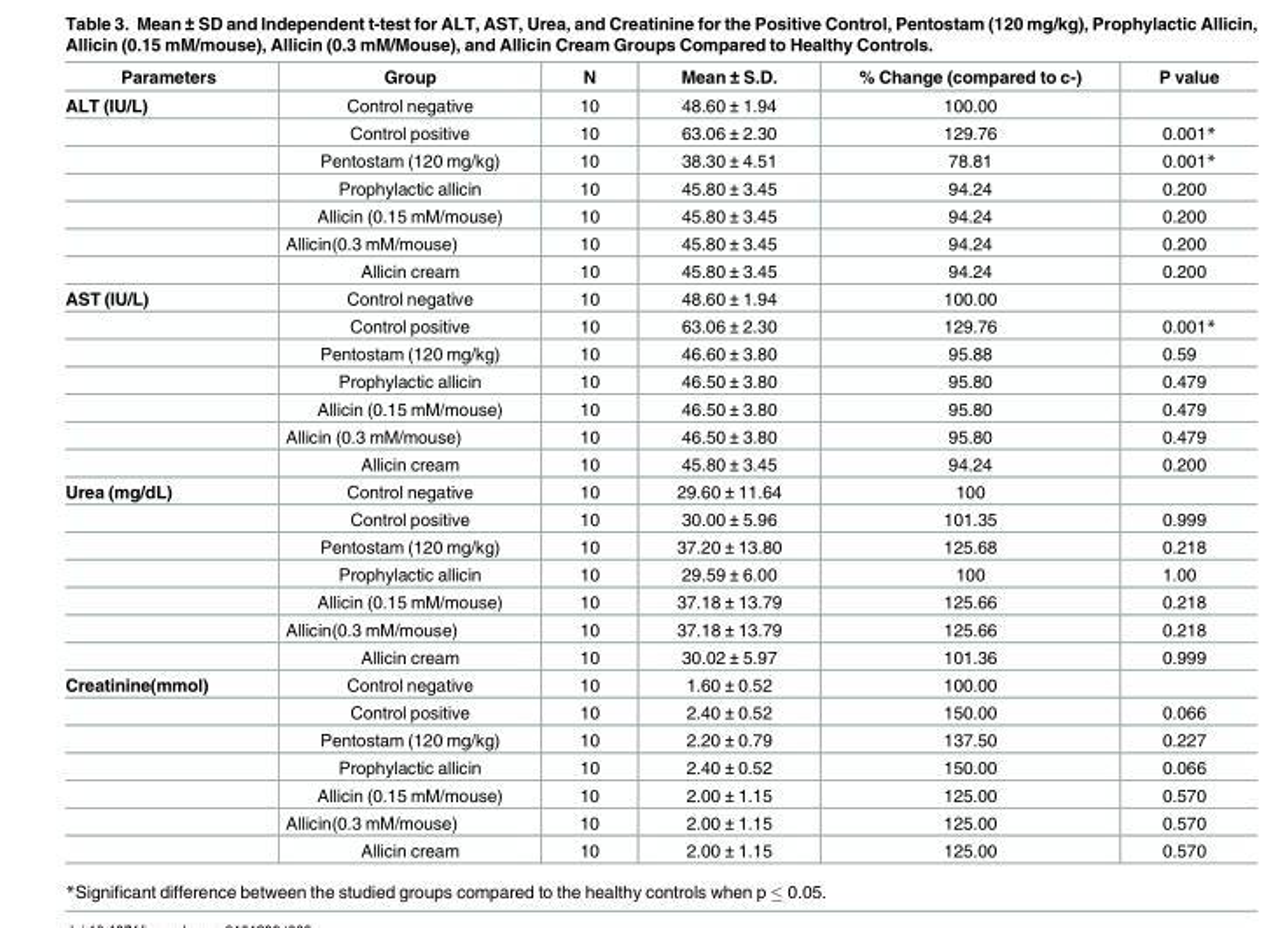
<table><thead><tr><td>Parameters</td><td>Group</td><td>N</td><td>Mean ± S.D.</td><td>% Change (compared to c-)</td><td>P value</td></tr></thead><tbody><tr><td rowspan="7">ALT (IU/L)</td><td>Control negative</td><td>10</td><td>48.60 ± 1.94</td><td>100.00</td><td></td></tr><tr><td>Control positive</td><td>10</td><td>63.06 ± 2.30</td><td>129.76</td><td>0.001*</td></tr><tr><td>Pentostam (120 mg/kg)</td><td>10</td><td>38.30 ± 4.51</td><td>78.81</td><td>0.001*</td></tr><tr><td>Prophylactic allicin</td><td>10</td><td>45.80 ± 3.45</td><td>94.24</td><td>0.200</td></tr><tr><td>Allicin (0.15 mM/mouse)</td><td>10</td><td>45.80 ± 3.45</td><td>94.24</td><td>0.200</td></tr><tr><td>Allicin(0.3 mM/mouse)</td><td>10</td><td>45.80 ± 3.45</td><td>94.24</td><td>0.200</td></tr><tr><td>Allicin cream</td><td>10</td><td>45.80 ± 3.45</td><td>94.24</td><td>0.200</td></tr><tr><td rowspan="7">AST (IU/L)</td><td>Control negative</td><td>10</td><td>48.60 ± 1.94</td><td>100.00</td><td></td></tr><tr><td>Control positive</td><td>10</td><td>63.06 ± 2.30</td><td>129.76</td><td>0.001*</td></tr><tr><td>Pentostam (120 mg/kg)</td><td>10</td><td>46.60 ± 3.80</td><td>95.88</td><td>0.59</td></tr><tr><td>Prophylactic allicin</td><td>10</td><td>46.50 ± 3.80</td><td>95.80</td><td>0.479</td></tr><tr><td>Allicin (0.15 mM/mouse)</td><td>10</td><td>46.50 ± 3.80</td><td>95.80</td><td>0.479</td></tr><tr><td>Allicin (0.3 mM/mouse)</td><td>10</td><td>46.50 ± 3.80</td><td>95.80</td><td>0.479</td></tr><tr><td>Allicin cream</td><td>10</td><td>45.80 ± 3.45</td><td>94.24</td><td>0.200</td></tr><tr><td rowspan="7">Urea (mg/dL)</td><td>Control negative</td><td>10</td><td>29.60 ± 11.64</td><td>100</td><td></td></tr><tr><td>Control positive</td><td>10</td><td>30.00 ± 5.96</td><td>101.35</td><td>0.999</td></tr><tr><td>Pentostam (120 mg/kg)</td><td>10</td><td>37.20 ± 13.80</td><td>125.68</td><td>0.218</td></tr><tr><td>Prophylactic allicin</td><td>10</td><td>29.59 ± 6.00</td><td>100</td><td>1.00</td></tr><tr><td>Allicin (0.15 mM/mouse)</td><td>10</td><td>37.18 ± 13.79</td><td>125.66</td><td>0.218</td></tr><tr><td>Allicin(0.3 mM/mouse)</td><td>10</td><td>37.18 ± 13.79</td><td>125.66</td><td>0.218</td></tr><tr><td>Allicin cream</td><td>10</td><td>30.02 ± 5.97</td><td>101.36</td><td>0.999</td></tr><tr><td rowspan="7">Creatinine(mmol)</td><td>Control negative</td><td>10</td><td>1.60 ± 0.52</td><td>100.00</td><td></td></tr><tr><td>Control positive</td><td>10</td><td>2.40 ± 0.52</td><td>150.00</td><td>0.066</td></tr><tr><td>Pentostam (120 mg/kg)</td><td>10</td><td>2.20 ± 0.79</td><td>137.50</td><td>0.227</td></tr><tr><td>Prophylactic allicin</td><td>10</td><td>2.40 ± 0.52</td><td>150.00</td><td>0.066</td></tr><tr><td>Allicin (0.15 mM/mouse)</td><td>10</td><td>2.00 ± 1.15</td><td>125.00</td><td>0.570</td></tr><tr><td>Allicin(0.3 mM/mouse)</td><td>10</td><td>2.00 ± 1.15</td><td>125.00</td><td>0.570</td></tr><tr><td>Allicin cream</td><td>10</td><td>2.00 ± 1.15</td><td>125.00</td><td>0.570</td></tr></tbody></table>